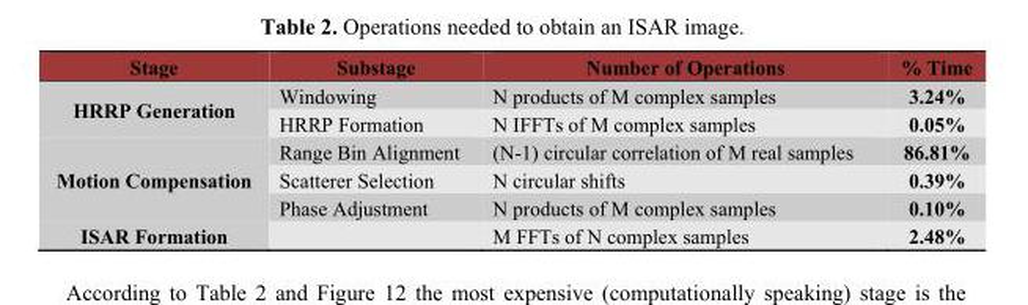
<table><thead><tr><td>Stage</td><td>Substage</td><td>Number of Operations</td><td>% Time</td></tr></thead><tbody><tr><td rowspan="2">HRRP Generation</td><td>Windowing</td><td>N products of M complex samples</td><td>3.24%</td></tr><tr><td>HRRP Formation</td><td>N IFFTs of M complex samples</td><td>0.05%</td></tr><tr><td rowspan="3">Motion Compensation</td><td>Range Bin Alignment</td><td>(N-1) circular correlation of M real samples</td><td>86.81%</td></tr><tr><td>Scatterer Selection</td><td>N circular shifts</td><td>0.39%</td></tr><tr><td>Phase Adjustment</td><td>N products of M complex samples</td><td>0.10%</td></tr><tr><td>ISAR Formation</td><td></td><td>M FFTs of N complex samples</td><td>2.48%</td></tr></tbody></table>